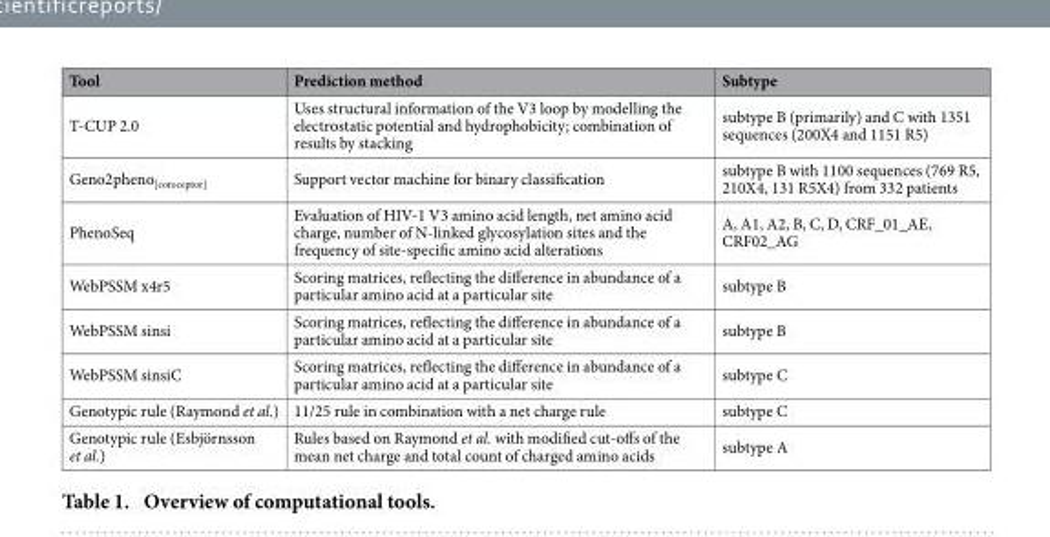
<table><thead><tr><td>Tool</td><td>Prediction method</td><td>Subtype</td></tr></thead><tbody><tr><td>T-CUP 2.0</td><td>Uses structural information of the V3 loop by modelling the electrostatic potential and hydrophobicity; combination of results by stacking</td><td>subtype B (primarily) and C with 1351 sequences (200X4 and 1151 R5)</td></tr><tr><td>Geno2pheno<sub>[coreceptor]</sub></td><td>Support vector machine for binary classification</td><td>subtype B with 1100 sequences (769 R5, 210X4, 131 R5X4) from 332 patients</td></tr><tr><td>PhenoSeq</td><td>Evaluation of HIV-1 V3 amino acid length, net amino acid charge, number of N-linked glycosylation sites and the frequency of site-specific amino acid alterations</td><td>A, A1, A2, B, C, D, CRF_01_AE, CRF02_AG</td></tr><tr><td>WebPSSM x4r5</td><td>Scoring matrices, reflecting the difference in abundance of a particular amino acid at a particular site</td><td>subtype B</td></tr><tr><td>WebPSSM sinsi</td><td>Scoring matrices, reflecting the difference in abundance of a particular amino acid at a particular site</td><td>subtype B</td></tr><tr><td>WebPSSM sinsiC</td><td>Scoring matrices, reflecting the difference in abundance of a particular amino acid at a particular site</td><td>subtype C</td></tr><tr><td>Genotypic rule (Raymond et al.)</td><td>11/25 rule in combination with a net charge rule</td><td>subtype C</td></tr><tr><td>Genotypic rule (Esbjörnsson et al.)</td><td>Rules based on Raymond et al. with modified cut-offs of the mean net charge and total count of charged amino acids</td><td>subtype A</td></tr></tbody></table>